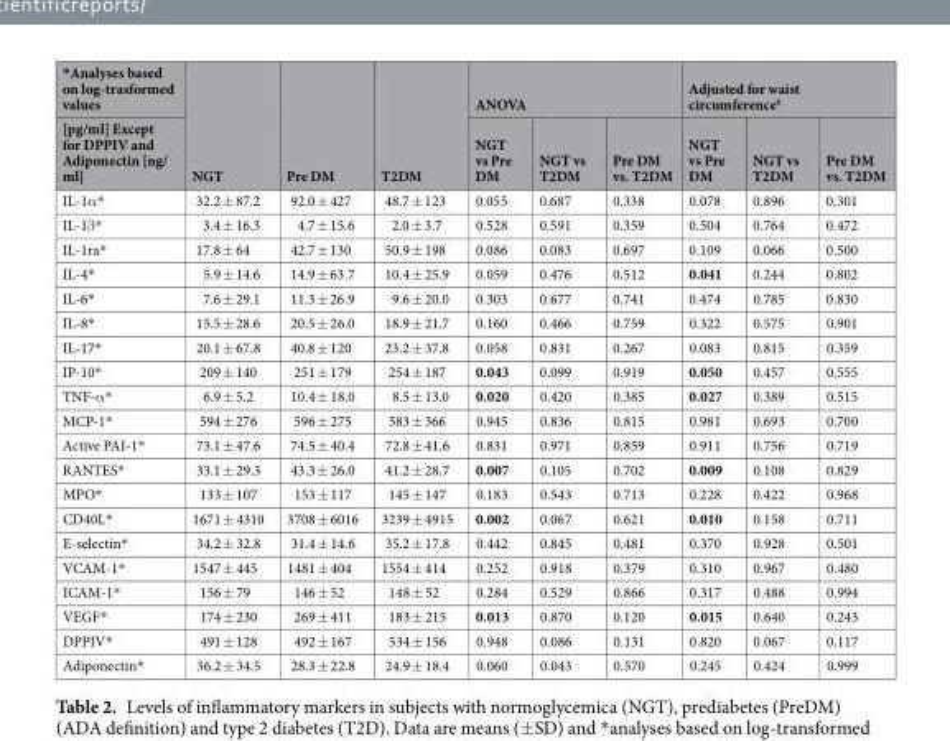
<table><thead><tr><td rowspan="2">*Analyses based on log-trasformed values [pg/ml] Except for DPPIV and Adiponectin [ng/ ml]</td><td rowspan="2">NGT</td><td rowspan="2">Pre DM</td><td rowspan="2">T2DM</td><td colspan="3">ANOVA</td><td colspan="3">Adjusted for waist circumference<sup>§</sup></td></tr><tr><td>NGT vs Pre DM</td><td>NGT vs T2DM</td><td>Pre DM vs. T2DM</td><td>NGT vs Pre DM</td><td>NGT vs T2DM</td><td>Pre DM vs. T2DM</td></tr></thead><tbody><tr><td>IL-1α*</td><td>32.2 ± 87.2</td><td>92.0 ± 427</td><td>48.7 ± 123</td><td>0.055</td><td>0.687</td><td>0.338</td><td>0.078</td><td>0.896</td><td>0.301</td></tr><tr><td>IL-1β*</td><td>3.4 ± 16.3</td><td>4.7 ± 15.6</td><td>2.0 ± 3.7</td><td>0.528</td><td>0.591</td><td>0.359</td><td>0.504</td><td>0.764</td><td>0.472</td></tr><tr><td>IL-1ra*</td><td>17.8 ± 64</td><td>42.7 ± 130</td><td>50.9 ± 198</td><td>0.086</td><td>0.083</td><td>0.697</td><td>0.109</td><td>0.066</td><td>0.500</td></tr><tr><td>IL-4*</td><td>5.9 ± 14.6</td><td>14.9 ± 63.7</td><td>10.4 ± 25.9</td><td>0.059</td><td>0.476</td><td>0.512</td><td>0.041</td><td>0.244</td><td>0.802</td></tr><tr><td>IL-6*</td><td>7.6 ± 29.1</td><td>11.3 ± 26.9</td><td>9.6 ± 20.0</td><td>0.303</td><td>0.677</td><td>0.741</td><td>0.474</td><td>0.785</td><td>0.830</td></tr><tr><td>IL-8*</td><td>15.5 ± 28.6</td><td>20.5 ± 26.0</td><td>18.9 ± 21.7</td><td>0.160</td><td>0.466</td><td>0.759</td><td>0.322</td><td>0.575</td><td>0.901</td></tr><tr><td>IL-17*</td><td>20.1 ± 67.8</td><td>40.8 ± 120</td><td>23.2 ± 37.8</td><td>0.058</td><td>0.831</td><td>0.267</td><td>0.083</td><td>0.815</td><td>0.359</td></tr><tr><td>IP-10*</td><td>209 ± 140</td><td>251 ± 179</td><td>254 ± 187</td><td>0.043</td><td>0.099</td><td>0.919</td><td>0.050</td><td>0.457</td><td>0.555</td></tr><tr><td>TNF-α*</td><td>6.9 ± 5.2</td><td>10.4 ± 18.0</td><td>8.5 ± 13.0</td><td>0.020</td><td>0.420</td><td>0.385</td><td>0.027</td><td>0.389</td><td>0.515</td></tr><tr><td>MCP-1*</td><td>594 ± 276</td><td>596 ± 275</td><td>583 ± 366</td><td>0.945</td><td>0.836</td><td>0.815</td><td>0.981</td><td>0.693</td><td>0.700</td></tr><tr><td>Active PAI-1*</td><td>73.1 ± 47.6</td><td>74.5 ± 40.4</td><td>72.8 ± 41.6</td><td>0.831</td><td>0.971</td><td>0.859</td><td>0.911</td><td>0.756</td><td>0.719</td></tr><tr><td>RANTES*</td><td>33.1 ± 29.3</td><td>43.3 ± 26.0</td><td>41.2 ± 28.7</td><td>0.007</td><td>0.105</td><td>0.702</td><td>0.009</td><td>0.108</td><td>0.829</td></tr><tr><td>MPO*</td><td>133 ± 107</td><td>153 ± 117</td><td>145 ± 147</td><td>0.183</td><td>0.543</td><td>0.713</td><td>0.228</td><td>0.422</td><td>0.968</td></tr><tr><td>CD40L*</td><td>1671 ± 4310</td><td>3708 ± 6016</td><td>3239 ± 4915</td><td>0.002</td><td>0.067</td><td>0.621</td><td>0.010</td><td>0.158</td><td>0.711</td></tr><tr><td>E-selectin*</td><td>34.2 ± 32.8</td><td>31.4 ± 14.6</td><td>35.2 ± 17.8</td><td>0.442</td><td>0.845</td><td>0.481</td><td>0.370</td><td>0.928</td><td>0.501</td></tr><tr><td>VCAM-1*</td><td>1547 ± 445</td><td>1481 ± 404</td><td>1554 ± 414</td><td>0.252</td><td>0.918</td><td>0.379</td><td>0.310</td><td>0.967</td><td>0.480</td></tr><tr><td>ICAM-1*</td><td>156 ± 79</td><td>146 ± 52</td><td>148 ± 52</td><td>0.284</td><td>0.529</td><td>0.866</td><td>0.317</td><td>0.488</td><td>0.994</td></tr><tr><td>VEGF*</td><td>174 ± 230</td><td>269 ± 411</td><td>183 ± 215</td><td>0.013</td><td>0.870</td><td>0.120</td><td>0.015</td><td>0.640</td><td>0.243</td></tr><tr><td>DPPIV*</td><td>491 ± 128</td><td>492 ± 167</td><td>534 ± 156</td><td>0.948</td><td>0.086</td><td>0.131</td><td>0.820</td><td>0.067</td><td>0.117</td></tr><tr><td>Adiponectin*</td><td>36.2 ± 34.5</td><td>28.3 ± 22.8</td><td>24.9 ± 18.4</td><td>0.060</td><td>0.043</td><td>0.570</td><td>0.245</td><td>0.424</td><td>0.999</td></tr></tbody></table>